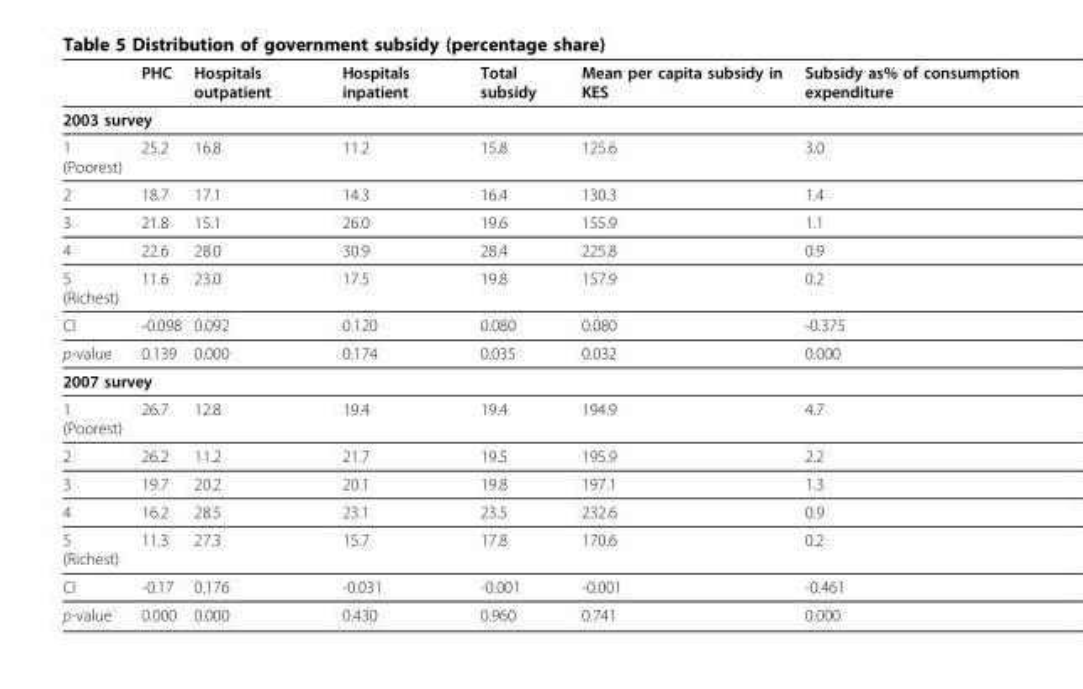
<table><thead><tr><td></td><td>PHC</td><td>Hospitals outpatient</td><td>Hospitals inpatient</td><td>Total subsidy</td><td>Mean per capita subsidy in KES</td><td>Subsidy as% of consumption expenditure</td></tr></thead><tbody><tr><td colspan="7">2003 survey</td></tr><tr><td>1 (Poorest)</td><td>25.2</td><td>16.8</td><td>11.2</td><td>15.8</td><td>125.6</td><td>3.0</td></tr><tr><td>2</td><td>18.7</td><td>17.1</td><td>14.3</td><td>16.4</td><td>130.3</td><td>1.4</td></tr><tr><td>3</td><td>21.8</td><td>15.1</td><td>26.0</td><td>19.6</td><td>155.9</td><td>1.1</td></tr><tr><td>4</td><td>22.6</td><td>28.0</td><td>30.9</td><td>28.4</td><td>225.8</td><td>0.9</td></tr><tr><td>5 (Richest)</td><td>11.6</td><td>23.0</td><td>17.5</td><td>19.8</td><td>157.9</td><td>0.2</td></tr><tr><td>CI</td><td>-0.098</td><td>0.092</td><td>0.120</td><td>0.080</td><td>0.080</td><td>-0.375</td></tr><tr><td>p-value</td><td>0.139</td><td>0.000</td><td>0.174</td><td>0.035</td><td>0.032</td><td>0.000</td></tr><tr><td colspan="7">2007 survey</td></tr><tr><td>1 (Poorest)</td><td>26.7</td><td>12.8</td><td>19.4</td><td>19.4</td><td>194.9</td><td>4.7</td></tr><tr><td>2</td><td>26.2</td><td>11.2</td><td>21.7</td><td>19.5</td><td>195.9</td><td>2.2</td></tr><tr><td>3</td><td>19.7</td><td>20.2</td><td>20.1</td><td>19.8</td><td>197.1</td><td>1.3</td></tr><tr><td>4</td><td>16.2</td><td>28.5</td><td>23.1</td><td>23.5</td><td>232.6</td><td>0.9</td></tr><tr><td>5 (Richest)</td><td>11.3</td><td>27.3</td><td>15.7</td><td>17.8</td><td>170.6</td><td>0.2</td></tr><tr><td>CI</td><td>-0.17</td><td>0.176</td><td>-0.031</td><td>-0.001</td><td>-0.001</td><td>-0.461</td></tr><tr><td>p-value</td><td>0.000</td><td>0.000</td><td>0.430</td><td>0.960</td><td>0.741</td><td>0.000</td></tr></tbody></table>